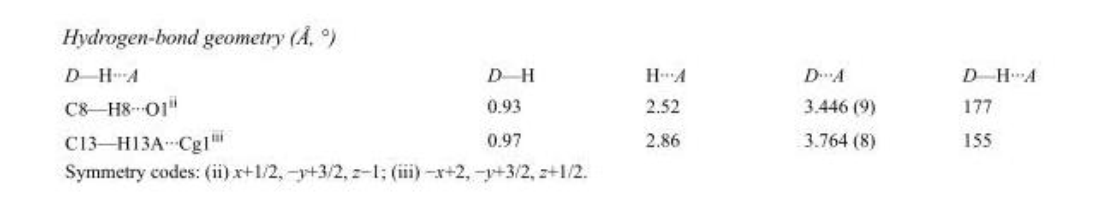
<table><tbody><tr><td>D—H···A</td><td>D—H</td><td>H···A</td><td>D···A</td><td>D—H···A</td></tr><tr><td>C8—H8···O1<sup>ii</sup></td><td>0.93</td><td>2.52</td><td>3.446 (9)</td><td>177</td></tr><tr><td>C13—H13A···Cg1<sup>iii</sup></td><td>0.97</td><td>2.86</td><td>3.764 (8)</td><td>155</td></tr></tbody></table>